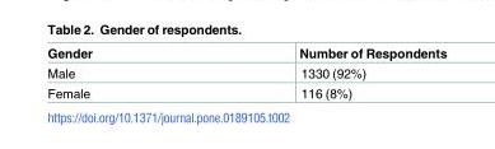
<table><thead><tr><td>Gender</td><td>Number of Respondents</td></tr></thead><tbody><tr><td>Male</td><td>1330 (92%)</td></tr><tr><td>Female</td><td>116 (8%)</td></tr></tbody></table>